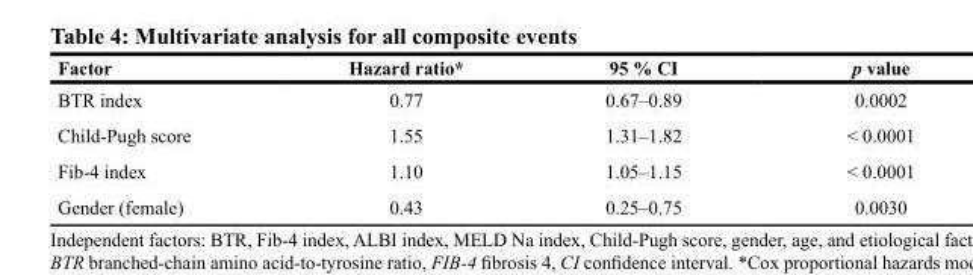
<table><thead><tr><td>Factor</td><td>Hazard ratio*</td><td>95 % CI</td><td>p value</td></tr></thead><tbody><tr><td>BTR index</td><td>0.77</td><td>0.67–0.89</td><td>0.0002</td></tr><tr><td>Child-Pugh score</td><td>1.55</td><td>1.31–1.82</td><td>&lt; 0.0001</td></tr><tr><td>Fib-4 index</td><td>1.10</td><td>1.05–1.15</td><td>&lt; 0.0001</td></tr><tr><td>Gender (female)</td><td>0.43</td><td>0.25–0.75</td><td>0.0030</td></tr></tbody></table>